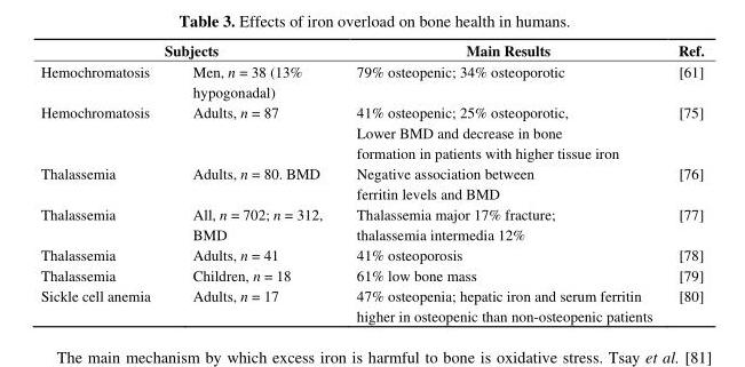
<table><thead><tr><td colspan="2">Subjects</td><td rowspan="2">Main Results 79% osteopenic; 34% osteoporotic</td><td rowspan="2">Ref. [61]</td></tr><tr><td>Hemochromatosis</td><td>Men, n = 38 (13% hypogonadal)</td></tr></thead><tbody><tr><td>Hemochromatosis</td><td>Adults, n = 87</td><td>41% osteopenic; 25% osteoporotic, Lower BMD and decrease in bone formation in patients with higher tissue iron</td><td>[75]</td></tr><tr><td>Thalassemia</td><td>Adults, n = 80. BMD</td><td>Negative association between ferritin levels and BMD</td><td>[76]</td></tr><tr><td>Thalassemia</td><td>All, n = 702; n = 312, BMD</td><td>Thalassemia major 17% fracture; thalassemia intermedia 12%</td><td>[77]</td></tr><tr><td>Thalassemia</td><td>Adults, n = 41</td><td>41% osteoporosis</td><td>[78]</td></tr><tr><td>Thalassemia</td><td>Children, n = 18</td><td>61% low bone mass</td><td>[79]</td></tr><tr><td>Sickle cell anemia</td><td>Adults, n = 17</td><td>47% osteopenia; hepatic iron and serum ferritin higher in osteopenic than non-osteopenic patients</td><td>[80]</td></tr></tbody></table>